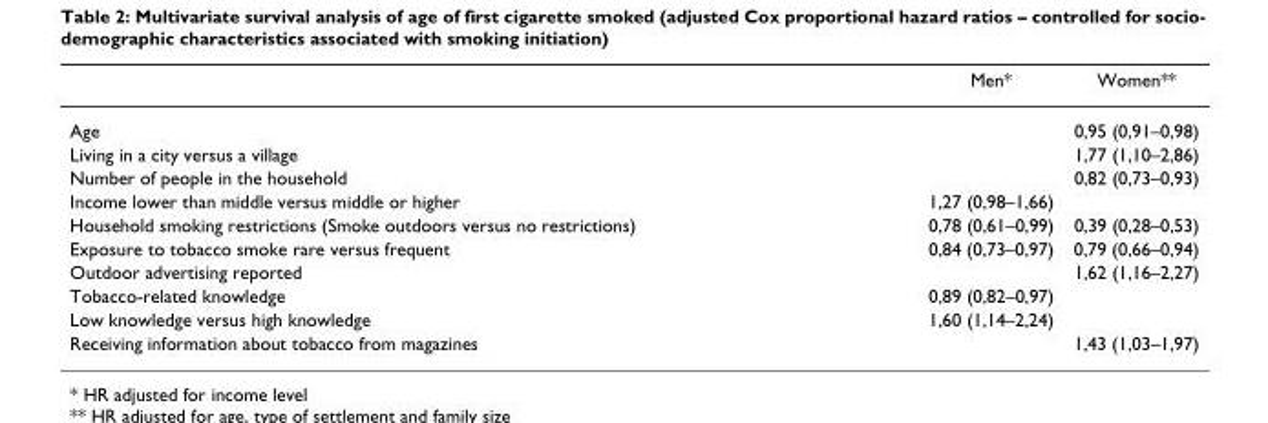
<table><thead><tr><td></td><td>Men*</td><td>Women**</td></tr></thead><tbody><tr><td>Age</td><td></td><td>0,95 (0,91–0,98)</td></tr><tr><td>Living in a city versus a village</td><td></td><td>1,77 (1,10–2,86)</td></tr><tr><td>Number of people in the household</td><td></td><td>0,82 (0,73–0,93)</td></tr><tr><td>Income lower than middle versus middle or higher</td><td>1,27 (0,98–1,66)</td><td></td></tr><tr><td>Household smoking restrictions (Smoke outdoors versus no restrictions)</td><td>0,78 (0,61–0,99)</td><td>0,39 (0,28–0,53)</td></tr><tr><td>Exposure to tobacco smoke rare versus frequent</td><td>0,84 (0,73–0,97)</td><td>0,79 (0,66–0,94)</td></tr><tr><td>Outdoor advertising reported</td><td></td><td>1,62 (1,16–2,27)</td></tr><tr><td>Tobacco-related knowledge</td><td>0,89 (0,82–0,97)</td><td></td></tr><tr><td>Low knowledge versus high knowledge</td><td>1,60 (1,14–2,24)</td><td></td></tr><tr><td>Receiving information about tobacco from magazines</td><td></td><td>1,43 (1,03–1,97)</td></tr></tbody></table>